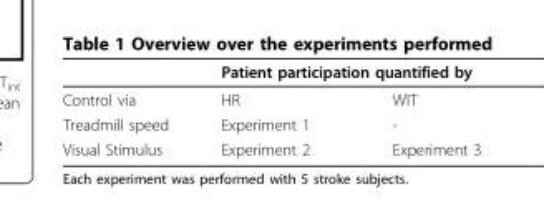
<table><thead><tr><td rowspan="2">Control via</td><td colspan="2">Patient participation quantified by</td></tr><tr><td>HR</td><td>WIT</td></tr></thead><tbody><tr><td>Treadmill speed</td><td>Experiment 1</td><td>-</td></tr><tr><td>Visual Stimulus</td><td>Experiment 2</td><td>Experiment 3</td></tr></tbody></table>